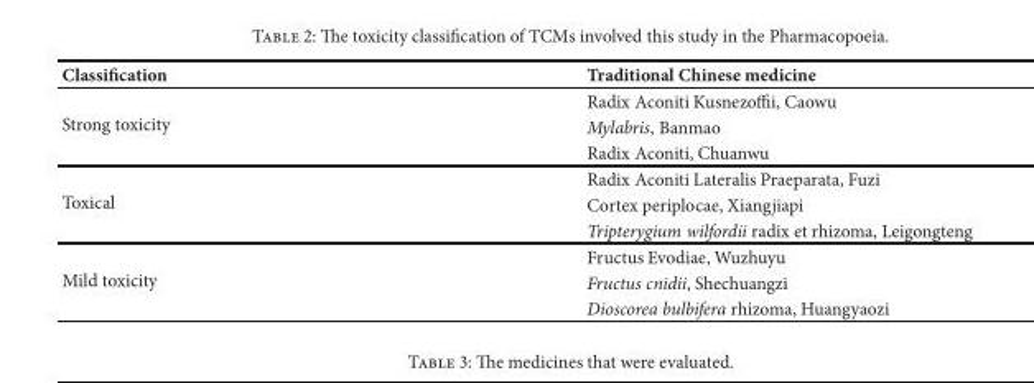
<table><thead><tr><td>Classification</td><td>Traditional Chinese medicine</td></tr></thead><tbody><tr><td rowspan="3">Strong toxicity</td><td>Radix Aconiti Kusnezoffii, Caowu</td></tr><tr><td>Mylabris, Banmao</td></tr><tr><td>Radix Aconiti, Chuanwu</td></tr><tr><td rowspan="3">Toxical</td><td>Radix Aconiti Lateralis Praeparata, Fuzi</td></tr><tr><td>Cortex periplocae, Xiangjiapi</td></tr><tr><td>Tripterygium wilfordii radix et rhizoma, Leigongteng</td></tr><tr><td rowspan="3">Mild toxicity</td><td>Fructus Evodiae, Wuzhuyu</td></tr><tr><td>Fructus cnidii, Shechuangzi</td></tr><tr><td>Dioscorea bulbifera rhizoma, Huangyaozi</td></tr></tbody></table>